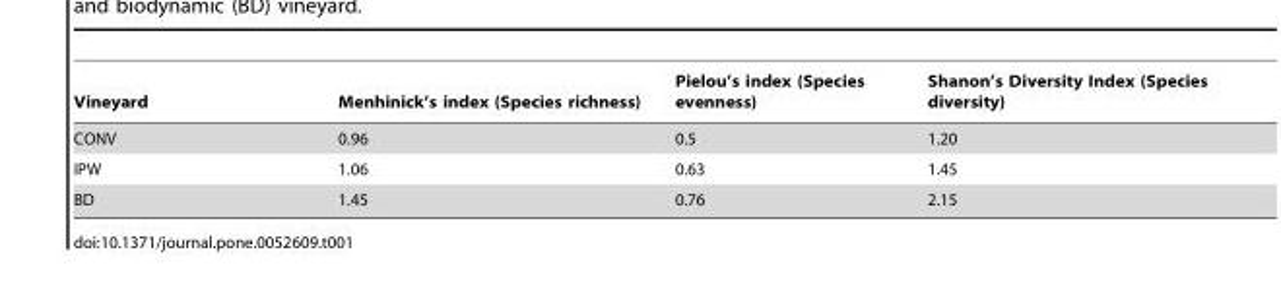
<table><thead><tr><td>Vineyard</td><td>Menhinick’s index (Species richness)</td><td>Pielou’s index (Species evenness)</td><td>Shanon’s Diversity Index (Species diversity)</td></tr></thead><tbody><tr><td>CONV</td><td>0.96</td><td>0.5</td><td>1.20</td></tr><tr><td>IPW</td><td>1.06</td><td>0.63</td><td>1.45</td></tr><tr><td>BD</td><td>1.45</td><td>0.76</td><td>2.15</td></tr></tbody></table>